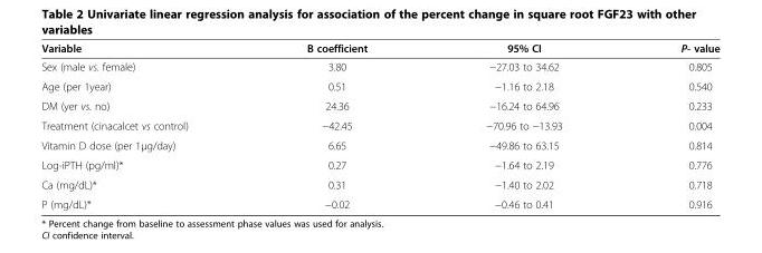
<table><thead><tr><td>Variable</td><td>B coefficient</td><td>95% CI</td><td>P- value</td></tr></thead><tbody><tr><td>Sex (male vs. female)</td><td>3.80</td><td>−27.03 to 34.62</td><td>0.805</td></tr><tr><td>Age (per 1year)</td><td>0.51</td><td>−1.16 to 2.18</td><td>0.540</td></tr><tr><td>DM (yer vs. no)</td><td>24.36</td><td>−16.24 to 64.96</td><td>0.233</td></tr><tr><td>Treatment (cinacalcet vs control)</td><td>−42.45</td><td>−70.96 to −13.93</td><td>0.004</td></tr><tr><td>Vitamin D dose (per 1μg/day)</td><td>6.65</td><td>−49.86 to 63.15</td><td>0.814</td></tr><tr><td>Log-iPTH (pg/ml)*</td><td>0.27</td><td>−1.64 to 2.19</td><td>0.776</td></tr><tr><td>Ca (mg/dL)*</td><td>0.31</td><td>−1.40 to 2.02</td><td>0.718</td></tr><tr><td>P (mg/dL)*</td><td>−0.02</td><td>−0.46 to 0.41</td><td>0.916</td></tr></tbody></table>